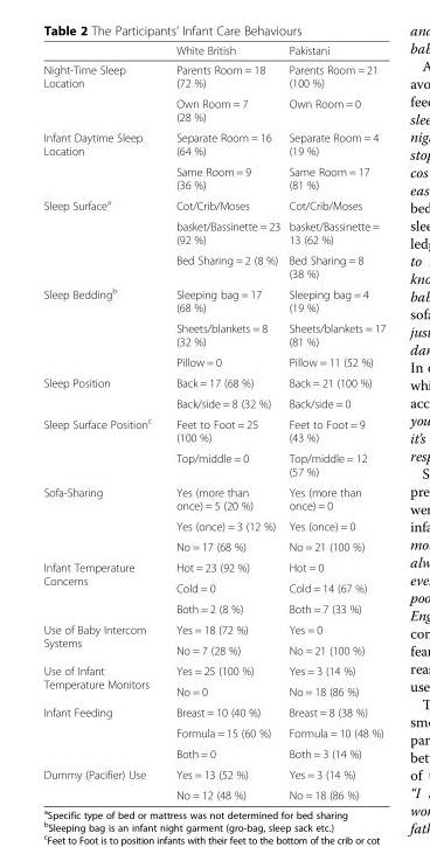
<table><thead><tr><td></td><td>White British</td><td>Pakistani</td></tr></thead><tbody><tr><td rowspan="2">Night-Time Sleep Location</td><td>Parents Room = 18 (72 %)</td><td>Parents Room = 21 (100 %)</td></tr><tr><td>Own Room = 7 (28 %)</td><td>Own Room = 0</td></tr><tr><td rowspan="2">Infant Daytime Sleep Location</td><td>Separate Room = 16 (64 %)</td><td>Separate Room = 4 (19 %)</td></tr><tr><td>Same Room = 9 (36 %)</td><td>Same Room = 17 (81 %)</td></tr><tr><td rowspan="3">Sleep Surface<sup>a</sup></td><td>Cot/Crib/Moses</td><td>Cot/Crib/Moses</td></tr><tr><td>basket/Bassinette = 23 (92 %)</td><td>basket/Bassinette = 13 (62 %)</td></tr><tr><td>Bed Sharing = 2 (8 %)</td><td>Bed Sharing = 8 (38 %)</td></tr><tr><td rowspan="3">Sleep Bedding<sup>b</sup></td><td>Sleeping bag = 17 (68 %)</td><td>Sleeping bag = 4 (19 %)</td></tr><tr><td>Sheets/blankets = 8 (32 %)</td><td>Sheets/blankets = 17 (81 %)</td></tr><tr><td>Pillow = 0</td><td>Pillow = 11 (52 %)</td></tr><tr><td rowspan="2">Sleep Position</td><td>Back = 17 (68 %)</td><td>Back = 21 (100 %)</td></tr><tr><td>Back/side = 8 (32 %)</td><td>Back/side = 0</td></tr><tr><td rowspan="2">Sleep Surface Position<sup>c</sup></td><td>Feet to Foot = 25 (100 %)</td><td>Feet to Foot = 9 (43 %)</td></tr><tr><td>Top/middle = 0</td><td>Top/middle = 12 (57 %)</td></tr><tr><td rowspan="3">Sofa-Sharing</td><td>Yes (more than once) = 5 (20 %)</td><td>Yes (more than once) = 0</td></tr><tr><td>Yes (once) = 3 (12 %)</td><td>Yes (once) = 0</td></tr><tr><td>No = 17 (68 %)</td><td>No = 21 (100 %)</td></tr><tr><td rowspan="3">Infant Temperature Concerns</td><td>Hot = 23 (92 %)</td><td>Hot = 0</td></tr><tr><td>Cold = 0</td><td>Cold = 14 (67 %)</td></tr><tr><td>Both = 2 (8 %)</td><td>Both = 7 (33 %)</td></tr><tr><td rowspan="2">Use of Baby Intercom Systems</td><td>Yes = 18 (72 %)</td><td>Yes = 0</td></tr><tr><td>No = 7 (28 %)</td><td>No = 21 (100 %)</td></tr><tr><td rowspan="2">Use of Infant Temperature Monitors</td><td>Yes = 25 (100 %)</td><td>Yes = 3 (14 %)</td></tr><tr><td>No = 0</td><td>No = 18 (86 %)</td></tr><tr><td rowspan="3">Infant Feeding</td><td>Breast = 10 (40 %)</td><td>Breast = 8 (38 %)</td></tr><tr><td>Formula = 15 (60 %)</td><td>Formula = 10 (48 %)</td></tr><tr><td>Both = 0</td><td>Both = 3 (14 %)</td></tr><tr><td rowspan="2">Dummy (Pacifier) Use</td><td>Yes = 13 (52 %)</td><td>Yes = 3 (14 %)</td></tr><tr><td>No = 12 (48 %)</td><td>No = 18 (86 %)</td></tr></tbody></table>